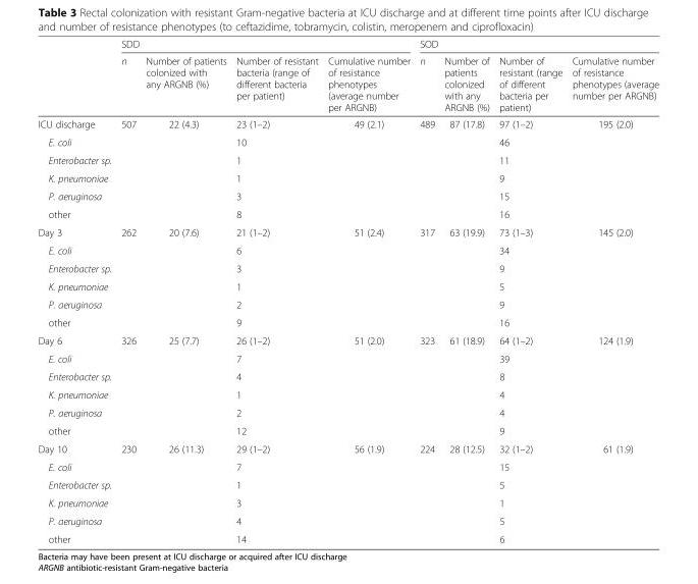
<table><thead><tr><td rowspan="2"></td><td colspan="4">SDD</td><td colspan="4">SOD</td></tr><tr><td>n</td><td>Number of patients colonized with any ARGNB (%)</td><td>Number of resistant bacteria (range of different bacteria per patient)</td><td>Cumulative number of resistance phenotypes (average number per ARGNB)</td><td>n</td><td>Number of patients colonized with any ARGNB (%)</td><td>Number of resistant (range of different bacteria per patient)</td><td>Cumulative number of resistance phenotypes (average number per ARGNB)</td></tr></thead><tbody><tr><td>ICU discharge</td><td>507</td><td>22 (4.3)</td><td>23 (1–2)</td><td>49 (2.1)</td><td>489</td><td>87 (17.8)</td><td>97 (1–2)</td><td>195 (2.0)</td></tr><tr><td>E. coli</td><td></td><td></td><td>10</td><td></td><td></td><td></td><td>46</td><td></td></tr><tr><td>Enterobacter sp.</td><td></td><td></td><td>1</td><td></td><td></td><td></td><td>11</td><td></td></tr><tr><td>K. pneumoniae</td><td></td><td></td><td>1</td><td></td><td></td><td></td><td>9</td><td></td></tr><tr><td>P. aeruginosa</td><td></td><td></td><td>3</td><td></td><td></td><td></td><td>15</td><td></td></tr><tr><td>other</td><td></td><td></td><td>8</td><td></td><td></td><td></td><td>16</td><td></td></tr><tr><td>Day 3</td><td>262</td><td>20 (7.6)</td><td>21 (1–2)</td><td>51 (2.4)</td><td>317</td><td>63 (19.9)</td><td>73 (1–3)</td><td>145 (2.0)</td></tr><tr><td>E. coli</td><td></td><td></td><td>6</td><td></td><td></td><td></td><td>34</td><td></td></tr><tr><td>Enterobacter sp.</td><td></td><td></td><td>3</td><td></td><td></td><td></td><td>9</td><td></td></tr><tr><td>K. pneumoniae</td><td></td><td></td><td>1</td><td></td><td></td><td></td><td>5</td><td></td></tr><tr><td>P. aeruginosa</td><td></td><td></td><td>2</td><td></td><td></td><td></td><td>9</td><td></td></tr><tr><td>other</td><td></td><td></td><td>9</td><td></td><td></td><td></td><td>16</td><td></td></tr><tr><td>Day 6</td><td>326</td><td>25 (7.7)</td><td>26 (1–2)</td><td>51 (2.0)</td><td>323</td><td>61 (18.9)</td><td>64 (1–2)</td><td>124 (1.9)</td></tr><tr><td>E. coli</td><td></td><td></td><td>7</td><td></td><td></td><td></td><td>39</td><td></td></tr><tr><td>Enterobacter sp.</td><td></td><td></td><td>4</td><td></td><td></td><td></td><td>8</td><td></td></tr><tr><td>K. pneumoniae</td><td></td><td></td><td>1</td><td></td><td></td><td></td><td>4</td><td></td></tr><tr><td>P. aeruginosa</td><td></td><td></td><td>2</td><td></td><td></td><td></td><td>4</td><td></td></tr><tr><td>other</td><td></td><td></td><td>12</td><td></td><td></td><td></td><td>9</td><td></td></tr><tr><td>Day 10</td><td>230</td><td>26 (11.3)</td><td>29 (1–2)</td><td>56 (1.9)</td><td>224</td><td>28 (12.5)</td><td>32 (1–2)</td><td>61 (1.9)</td></tr><tr><td>E. coli</td><td></td><td></td><td>7</td><td></td><td></td><td></td><td>15</td><td></td></tr><tr><td>Enterobacter sp.</td><td></td><td></td><td>1</td><td></td><td></td><td></td><td>5</td><td></td></tr><tr><td>K. pneumoniae</td><td></td><td></td><td>3</td><td></td><td></td><td></td><td>1</td><td></td></tr><tr><td>P. aeruginosa</td><td></td><td></td><td>4</td><td></td><td></td><td></td><td>5</td><td></td></tr><tr><td>other</td><td></td><td></td><td>14</td><td></td><td></td><td></td><td>6</td><td></td></tr></tbody></table>